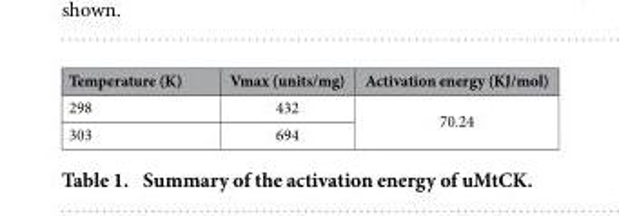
<table><thead><tr><td>Temperature (K)</td><td>Vmax (units/mg)</td><td>Activation energy (KJ/mol)</td></tr></thead><tbody><tr><td>298</td><td>432</td><td rowspan="2">70.24</td></tr><tr><td>303</td><td>694</td></tr></tbody></table>